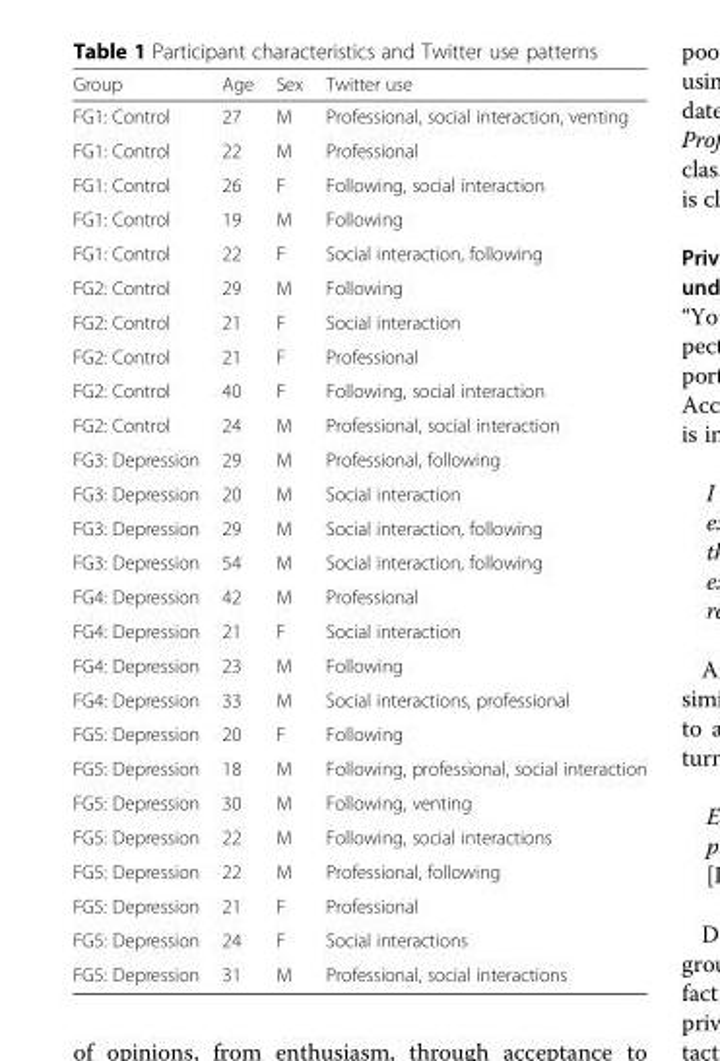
<table><thead><tr><td>Group</td><td>Age</td><td>Sex</td><td>Twitter use</td></tr></thead><tbody><tr><td>FG1: Control</td><td>27</td><td>M</td><td>Professional, social interaction, venting</td></tr><tr><td>FG1: Control</td><td>22</td><td>M</td><td>Professional</td></tr><tr><td>FG1: Control</td><td>26</td><td>F</td><td>Following, social interaction</td></tr><tr><td>FG1: Control</td><td>19</td><td>M</td><td>Following</td></tr><tr><td>FG1: Control</td><td>22</td><td>F</td><td>Social interaction, following</td></tr><tr><td>FG2: Control</td><td>29</td><td>M</td><td>Following</td></tr><tr><td>FG2: Control</td><td>21</td><td>F</td><td>Social interaction</td></tr><tr><td>FG2: Control</td><td>21</td><td>F</td><td>Professional</td></tr><tr><td>FG2: Control</td><td>40</td><td>F</td><td>Following, social interaction</td></tr><tr><td>FG2: Control</td><td>24</td><td>M</td><td>Professional, social interaction</td></tr><tr><td>FG3: Depression</td><td>29</td><td>M</td><td>Professional, following</td></tr><tr><td>FG3: Depression</td><td>20</td><td>M</td><td>Social interaction</td></tr><tr><td>FG3: Depression</td><td>29</td><td>M</td><td>Social interaction, following</td></tr><tr><td>FG3: Depression</td><td>54</td><td>M</td><td>Social interaction, following</td></tr><tr><td>FG4: Depression</td><td>42</td><td>M</td><td>Professional</td></tr><tr><td>FG4: Depression</td><td>21</td><td>F</td><td>Social interaction</td></tr><tr><td>FG4: Depression</td><td>23</td><td>M</td><td>Following</td></tr><tr><td>FG4: Depression</td><td>33</td><td>M</td><td>Social interactions, professional</td></tr><tr><td>FG5: Depression</td><td>20</td><td>F</td><td>Following</td></tr><tr><td>FG5: Depression</td><td>18</td><td>M</td><td>Following, professional, social interaction</td></tr><tr><td>FG5: Depression</td><td>30</td><td>M</td><td>Following, venting</td></tr><tr><td>FG5: Depression</td><td>22</td><td>M</td><td>Following, social interactions</td></tr><tr><td>FG5: Depression</td><td>22</td><td>M</td><td>Professional, following</td></tr><tr><td>FG5: Depression</td><td>21</td><td>F</td><td>Professional</td></tr><tr><td>FG5: Depression</td><td>24</td><td>F</td><td>Social interactions</td></tr><tr><td>FG5: Depression</td><td>31</td><td>M</td><td>Professional, social interactions</td></tr></tbody></table>